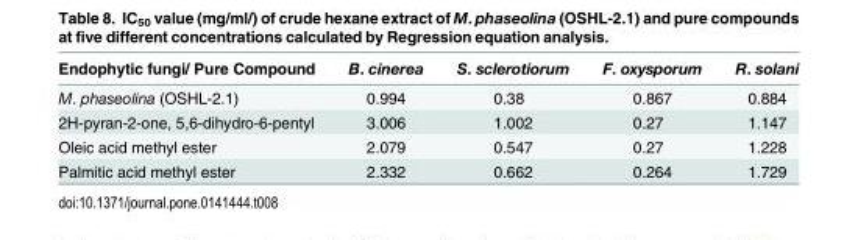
<table><thead><tr><td>Endophytic fungi/ Pure Compound</td><td>B. cinerea</td><td>S. sclerotiorum</td><td>F. oxysporum</td><td>R. solani</td></tr></thead><tbody><tr><td>M. phaseolina (OSHL-2.1)</td><td>0.994</td><td>0.38</td><td>0.867</td><td>0.884</td></tr><tr><td>2H-pyran-2-one, 5,6-dihydro-6-pentyl</td><td>3.006</td><td>1.002</td><td>0.27</td><td>1.147</td></tr><tr><td>Oleic acid methyl ester</td><td>2.079</td><td>0.547</td><td>0.27</td><td>1.228</td></tr><tr><td>Palmitic acid methyl ester</td><td>2.332</td><td>0.662</td><td>0.264</td><td>1.729</td></tr></tbody></table>